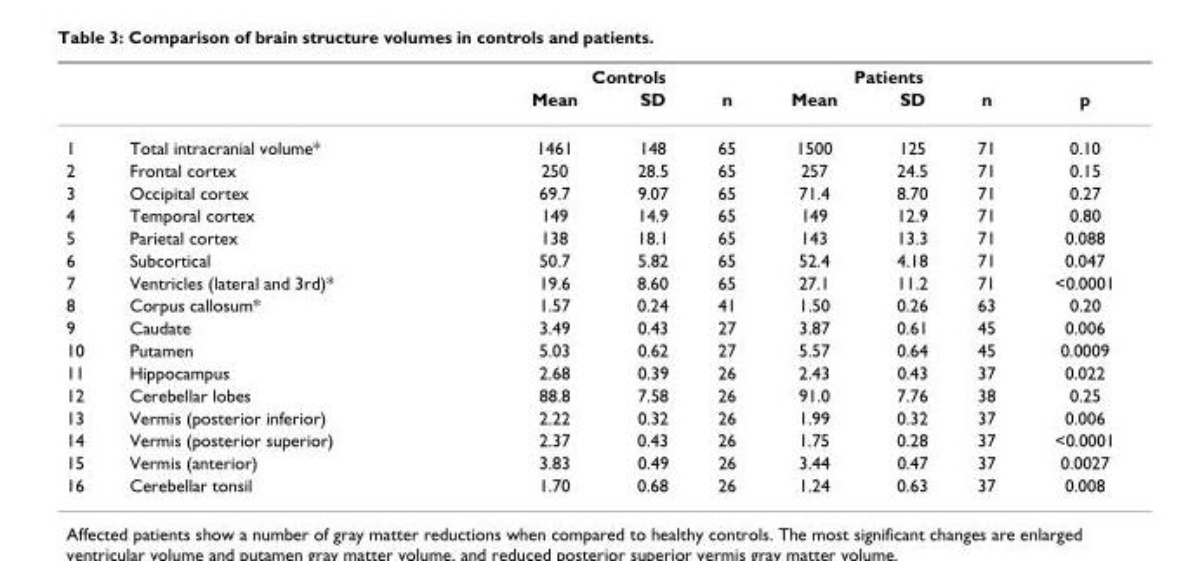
<table><thead><tr><td rowspan="2"></td><td rowspan="2"></td><td colspan="3">Controls</td><td colspan="3">Patients</td><td rowspan="2">p</td></tr><tr><td>Mean</td><td>SD</td><td>n</td><td>Mean</td><td>SD</td><td>n</td></tr></thead><tbody><tr><td>1</td><td>Total intracranial volume*</td><td>1461</td><td>148</td><td>65</td><td>1500</td><td>125</td><td>71</td><td>0.10</td></tr><tr><td>2</td><td>Frontal cortex</td><td>250</td><td>28.5</td><td>65</td><td>257</td><td>24.5</td><td>71</td><td>0.15</td></tr><tr><td>3</td><td>Occipital cortex</td><td>69.7</td><td>9.07</td><td>65</td><td>71.4</td><td>8.70</td><td>71</td><td>0.27</td></tr><tr><td>4</td><td>Temporal cortex</td><td>149</td><td>14.9</td><td>65</td><td>149</td><td>12.9</td><td>71</td><td>0.80</td></tr><tr><td>5</td><td>Parietal cortex</td><td>138</td><td>18.1</td><td>65</td><td>143</td><td>13.3</td><td>71</td><td>0.088</td></tr><tr><td>6</td><td>Subcortical</td><td>50.7</td><td>5.82</td><td>65</td><td>52.4</td><td>4.18</td><td>71</td><td>0.047</td></tr><tr><td>7</td><td>Ventricles (lateral and 3rd)*</td><td>19.6</td><td>8.60</td><td>65</td><td>27.1</td><td>11.2</td><td>71</td><td>&lt;0.0001</td></tr><tr><td>8</td><td>Corpus callosum*</td><td>1.57</td><td>0.24</td><td>41</td><td>1.50</td><td>0.26</td><td>63</td><td>0.20</td></tr><tr><td>9</td><td>Caudate</td><td>3.49</td><td>0.43</td><td>27</td><td>3.87</td><td>0.61</td><td>45</td><td>0.006</td></tr><tr><td>10</td><td>Putamen</td><td>5.03</td><td>0.62</td><td>27</td><td>5.57</td><td>0.64</td><td>45</td><td>0.0009</td></tr><tr><td>11</td><td>Hippocampus</td><td>2.68</td><td>0.39</td><td>26</td><td>2.43</td><td>0.43</td><td>37</td><td>0.022</td></tr><tr><td>12</td><td>Cerebellar lobes</td><td>88.8</td><td>7.58</td><td>26</td><td>91.0</td><td>7.76</td><td>38</td><td>0.25</td></tr><tr><td>13</td><td>Vermis (posterior inferior)</td><td>2.22</td><td>0.32</td><td>26</td><td>1.99</td><td>0.32</td><td>37</td><td>0.006</td></tr><tr><td>14</td><td>Vermis (posterior superior)</td><td>2.37</td><td>0.43</td><td>26</td><td>1.75</td><td>0.28</td><td>37</td><td>&lt;0.0001</td></tr><tr><td>15</td><td>Vermis (anterior)</td><td>3.83</td><td>0.49</td><td>26</td><td>3.44</td><td>0.47</td><td>37</td><td>0.0027</td></tr><tr><td>16</td><td>Cerebellar tonsil</td><td>1.70</td><td>0.68</td><td>26</td><td>1.24</td><td>0.63</td><td>37</td><td>0.008</td></tr></tbody></table>